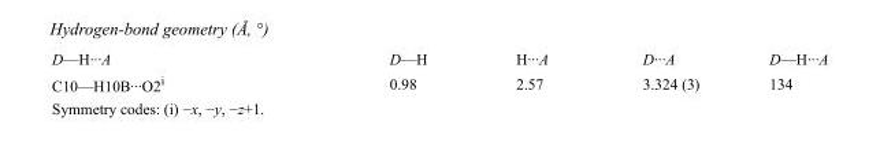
<table><tbody><tr><td>D—H···A</td><td>D—H</td><td>H···A</td><td>D···A</td><td>D—H···A</td></tr><tr><td>C10—H10B···O2<sup>i</sup></td><td>0.98</td><td>2.57</td><td>3.324 (3)</td><td>134</td></tr></tbody></table>